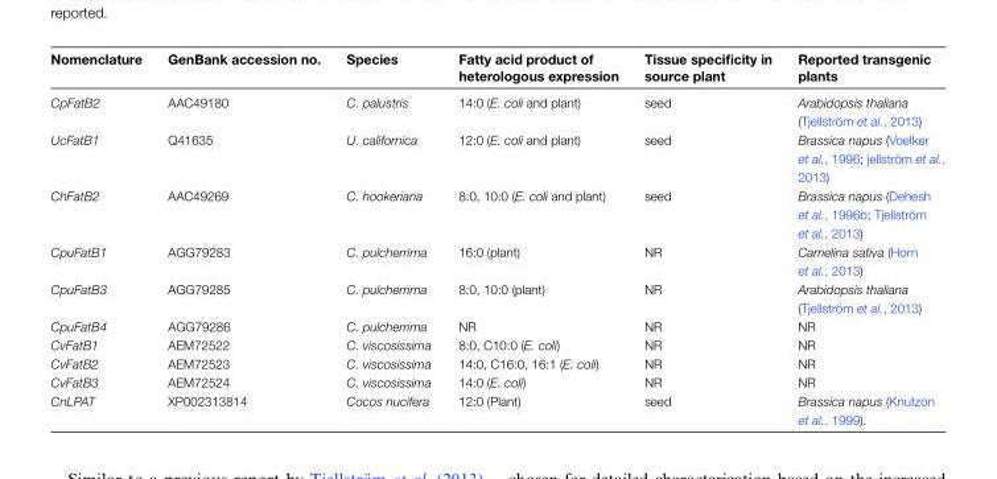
<table><thead><tr><td>Nomenclature</td><td>GenBank accession no.</td><td>Species</td><td>Fatty acid product of heterologous expression</td><td>Tissue specificity in source plant</td><td>Reported transgenic plants</td></tr></thead><tbody><tr><td>CpFatB2</td><td>AAC49180</td><td>C. palustris</td><td>14:0 (E. coli and plant)</td><td>seed</td><td>Arabidopsis thaliana (Tjellström et al., 2013)</td></tr><tr><td>UcFatB1</td><td>Q41635</td><td>U. californica</td><td>12:0 (E. coli and plant)</td><td>seed</td><td>Brassica napus (Voelker et al., 1996; jellström et al., 2013)</td></tr><tr><td>ChFatB2</td><td>AAC49269</td><td>C. hookeriana</td><td>8:0, 10:0 (E. coli and plant)</td><td>seed</td><td>Brassica napus (Dehesh et al., 1996b; Tjellström et al., 2013)</td></tr><tr><td>CpuFatB1</td><td>AGG79283</td><td>C. pulcherrima</td><td>16:0 (plant)</td><td>NR</td><td>Camelina sativa (Horn et al., 2013)</td></tr><tr><td>CpuFatB3</td><td>AGG79285</td><td>C. pulcherrima</td><td>8:0, 10:0 (plant)</td><td>NR</td><td>Arabidopsis thaliana (Tjellström et al., 2013)</td></tr><tr><td>CpuFatB4</td><td>AGG79286</td><td>C. pulcherrima</td><td>NR</td><td>NR</td><td>NR</td></tr><tr><td>CvFatB1</td><td>AEM72522</td><td>C. viscosissima</td><td>8:0, C10:0 (E. coli)</td><td>NR</td><td>NR</td></tr><tr><td>CvFatB2</td><td>AEM72523</td><td>C. viscosissima</td><td>14:0, C16:0, 16:1 (E. coli)</td><td>NR</td><td>NR</td></tr><tr><td>CvFatB3</td><td>AEM72524</td><td>C. viscosissima</td><td>14:0 (E. coli)</td><td>NR</td><td>NR</td></tr><tr><td>CnLPAT</td><td>XP002313814</td><td>Cocos nucifera</td><td>12:0 (Plant)</td><td>seed</td><td>Brassica napus (Knutzon et al., 1999).</td></tr></tbody></table>